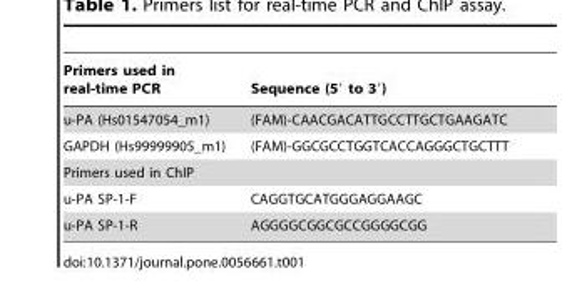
<table><thead><tr><td>Primers used in real-time PCR</td><td>Sequence (5′ to 3′)</td></tr></thead><tbody><tr><td>u-PA (Hs01547054_m1)</td><td>(FAM)-CAACGACATTGCCTTGCTGAAGATC</td></tr><tr><td>GAPDH (Hs99999905_m1)</td><td>(FAM)-GGCGCCTGGTCACCAGGGCTGCTTT</td></tr><tr><td colspan="2">Primers used in ChIP</td></tr><tr><td>u-PA SP-1-F</td><td>CAGGTGCATGGGAGGAAGC</td></tr><tr><td>u-PA SP-1-R</td><td>AGGGGCGGCGCCGGGGCGG</td></tr></tbody></table>